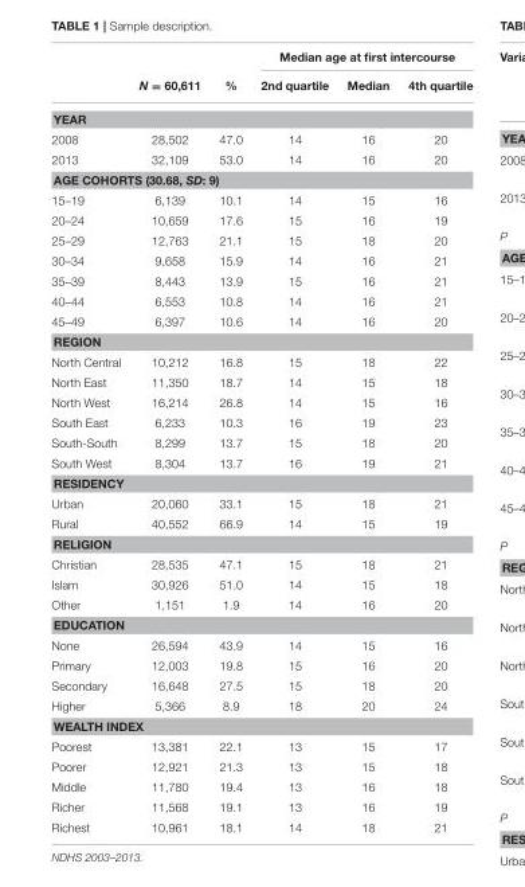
<table><thead><tr><td rowspan="2"></td><td rowspan="2">N = 60,611</td><td rowspan="2">%</td><td colspan="3">Median age at first intercourse</td></tr><tr><td>2nd quartile</td><td>Median</td><td>4th quartile</td></tr></thead><tbody><tr><td colspan="6">YEAR</td></tr><tr><td>2008</td><td>28,502</td><td>47.0</td><td>14</td><td>16</td><td>20</td></tr><tr><td>2013</td><td>32,109</td><td>53.0</td><td>14</td><td>16</td><td>20</td></tr><tr><td colspan="6">AGE COHORTS (30.68, SD: 9)</td></tr><tr><td>15–19</td><td>6,139</td><td>10.1</td><td>14</td><td>15</td><td>16</td></tr><tr><td>20–24</td><td>10,659</td><td>17.6</td><td>15</td><td>16</td><td>19</td></tr><tr><td>25–29</td><td>12,763</td><td>21.1</td><td>15</td><td>18</td><td>20</td></tr><tr><td>30–34</td><td>9,658</td><td>15.9</td><td>14</td><td>16</td><td>21</td></tr><tr><td>35–39</td><td>8,443</td><td>13.9</td><td>15</td><td>16</td><td>21</td></tr><tr><td>40–44</td><td>6,553</td><td>10.8</td><td>14</td><td>16</td><td>21</td></tr><tr><td>45–49</td><td>6,397</td><td>10.6</td><td>14</td><td>16</td><td>20</td></tr><tr><td colspan="6">REGION</td></tr><tr><td>North Central</td><td>10,212</td><td>16.8</td><td>15</td><td>18</td><td>22</td></tr><tr><td>North East</td><td>11,350</td><td>18.7</td><td>14</td><td>15</td><td>18</td></tr><tr><td>North West</td><td>16,214</td><td>26.8</td><td>14</td><td>15</td><td>16</td></tr><tr><td>South East</td><td>6,233</td><td>10.3</td><td>16</td><td>19</td><td>23</td></tr><tr><td>South-South</td><td>8,299</td><td>13.7</td><td>15</td><td>18</td><td>20</td></tr><tr><td>South West</td><td>8,304</td><td>13.7</td><td>16</td><td>19</td><td>21</td></tr><tr><td colspan="6">RESIDENCY</td></tr><tr><td>Urban</td><td>20,060</td><td>33.1</td><td>15</td><td>18</td><td>21</td></tr><tr><td>Rural</td><td>40,552</td><td>66.9</td><td>14</td><td>15</td><td>19</td></tr><tr><td colspan="6">RELIGION</td></tr><tr><td>Christian</td><td>28,535</td><td>47.1</td><td>15</td><td>18</td><td>21</td></tr><tr><td>Islam</td><td>30,926</td><td>51.0</td><td>14</td><td>15</td><td>18</td></tr><tr><td>Other</td><td>1,151</td><td>1.9</td><td>14</td><td>16</td><td>20</td></tr><tr><td colspan="6">EDUCATION</td></tr><tr><td>None</td><td>26,594</td><td>43.9</td><td>14</td><td>15</td><td>16</td></tr><tr><td>Primary</td><td>12,003</td><td>19.8</td><td>15</td><td>16</td><td>20</td></tr><tr><td>Secondary</td><td>16,648</td><td>27.5</td><td>15</td><td>18</td><td>20</td></tr><tr><td>Higher</td><td>5,366</td><td>8.9</td><td>18</td><td>20</td><td>24</td></tr><tr><td colspan="6">WEALTH INDEX</td></tr><tr><td>Poorest</td><td>13,381</td><td>22.1</td><td>13</td><td>15</td><td>17</td></tr><tr><td>Poorer</td><td>12,921</td><td>21.3</td><td>13</td><td>15</td><td>18</td></tr><tr><td>Middle</td><td>11,780</td><td>19.4</td><td>13</td><td>16</td><td>18</td></tr><tr><td>Richer</td><td>11,568</td><td>19.1</td><td>13</td><td>16</td><td>19</td></tr><tr><td>Richest</td><td>10,961</td><td>18.1</td><td>14</td><td>18</td><td>21</td></tr></tbody></table>